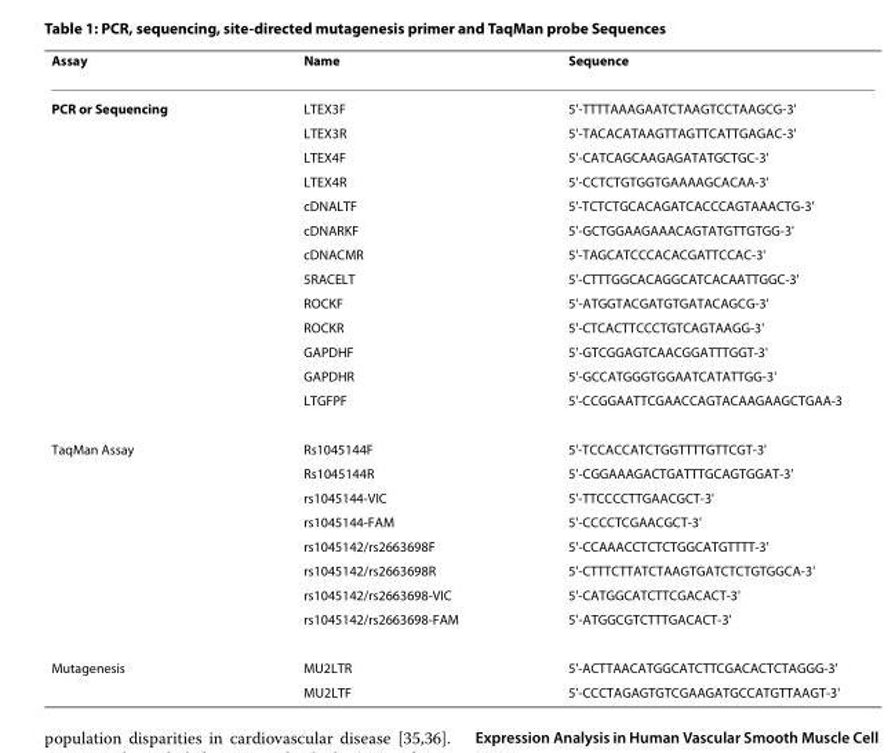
<table><thead><tr><td>Assay</td><td>Name</td><td>Sequence</td></tr></thead><tbody><tr><td rowspan="13">PCR or Sequencing</td><td>LTEX3F</td><td>5&#x27;-TTTTAAAGAATCTAAGTCCTAAGCG-3&#x27;</td></tr><tr><td>LTEX3R</td><td>5&#x27;-TACACATAAGTTAGTTCATTGAGAC-3&#x27;</td></tr><tr><td>LTEX4F</td><td>5&#x27;-CATCAGCAAGAGATATGCTGC-3&#x27;</td></tr><tr><td>LTEX4R</td><td>5&#x27;-CCTCTGTGGTGAAAAGCACAA-3&#x27;</td></tr><tr><td>cDNALTF</td><td>5&#x27;-TCTCTGCACAGATCACCCAGTAAACTG-3&#x27;</td></tr><tr><td>cDNARKF</td><td>5&#x27;-GCTGGAAGAAACAGTATGTTGTGG-3&#x27;</td></tr><tr><td>cDNACMR</td><td>5&#x27;-TAGCATCCCACACGATTCCAC-3&#x27;</td></tr><tr><td>5RACELT</td><td>5&#x27;-CTTTGGCACAGGCATCACAATTGGC-3&#x27;</td></tr><tr><td>ROCKF</td><td>5&#x27;-ATGGTACGATGTGATACAGCG-3&#x27;</td></tr><tr><td>ROCKR</td><td>5&#x27;-CTCACTTCCCTGTCAGTAAGG-3&#x27;</td></tr><tr><td>GAPDHF</td><td>5&#x27;-GTCGGAGTCAACGGATTTGGT-3&#x27;</td></tr><tr><td>GAPDHR</td><td>5&#x27;-GCCATGGGTGGAATCATATTGG-3&#x27;</td></tr><tr><td>LTGFPF</td><td>5&#x27;-CCGGAATTCGAACCAGTACAAGAAGCTGAA-3</td></tr><tr><td rowspan="8">TaqMan Assay</td><td>Rs1045144F</td><td>5&#x27;-TCCACCATCTGGTTTTGTTCGT-3&#x27;</td></tr><tr><td>Rs1045144R</td><td>5&#x27;-CGGAAAGACTGATTTGCAGTGGAT-3&#x27;</td></tr><tr><td>rs1045144-VIC</td><td>5&#x27;-TTCCCCTTGAACGCT-3&#x27;</td></tr><tr><td>rs1045144-FAM</td><td>5&#x27;-CCCCTCGAACGCT-3&#x27;</td></tr><tr><td>rs1045142/rs2663698F</td><td>5&#x27;-CCAAACCTCTCTGGCATGTTTT-3&#x27;</td></tr><tr><td>rs1045142/rs2663698R</td><td>5&#x27;-CTTTCTTATCTAAGTGATCTCTGTGGCA-3&#x27;</td></tr><tr><td>rs1045142/rs2663698-VIC</td><td>5&#x27;-CATGGCATCTTCGACACT-3&#x27;</td></tr><tr><td>rs1045142/rs2663698-FAM</td><td>5&#x27;-ATGGCGTCTTTGACACT-3&#x27;</td></tr><tr><td rowspan="2">Mutagenesis</td><td>MU2LTR</td><td>5&#x27;-ACTTAACATGGCATCTTCGACACTCTAGGG-3&#x27;</td></tr><tr><td>MU2LTF</td><td>5&#x27;-CCCTAGAGTGTCGAAGATGCCATGTTAAGT-3&#x27;</td></tr></tbody></table>